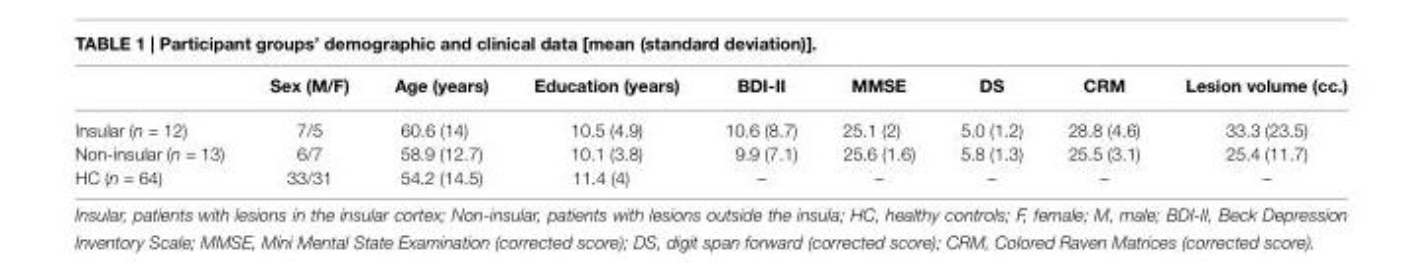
<table><thead><tr><td></td><td>Sex (M/F)</td><td>Age (years)</td><td>Education (years)</td><td>BDI-II</td><td>MMSE</td><td>DS</td><td>CRM</td><td>Lesion volume (cc.)</td></tr></thead><tbody><tr><td>Insular (n = 12)</td><td>7/5</td><td>60.6 (14)</td><td>10.5 (4.9)</td><td>10.6 (8.7)</td><td>25.1 (2)</td><td>5.0 (1.2)</td><td>28.8 (4.6)</td><td>33.3 (23.5)</td></tr><tr><td>Non-insular (n = 13)</td><td>6/7</td><td>58.9 (12.7)</td><td>10.1 (3.8)</td><td>9.9 (7.1)</td><td>25.6 (1.6)</td><td>5.8 (1.3)</td><td>25.5 (3.1)</td><td>25.4 (11.7)</td></tr><tr><td>HC (n = 64)</td><td>33/31</td><td>54.2 (14.5)</td><td>11.4 (4)</td><td>–</td><td>–</td><td>–</td><td>–</td><td>–</td></tr></tbody></table>